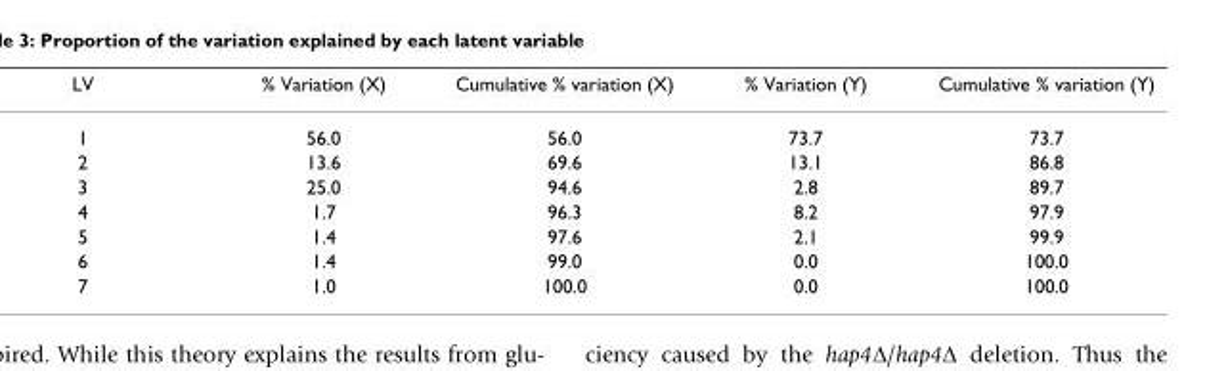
<table><thead><tr><td>LV</td><td>% Variation (X)</td><td>Cumulative % variation (X)</td><td>% Variation (Y)</td><td>Cumulative % variation (Y)</td></tr></thead><tbody><tr><td>1</td><td>56.0</td><td>56.0</td><td>73.7</td><td>73.7</td></tr><tr><td>2</td><td>13.6</td><td>69.6</td><td>13.1</td><td>86.8</td></tr><tr><td>3</td><td>25.0</td><td>94.6</td><td>2.8</td><td>89.7</td></tr><tr><td>4</td><td>1.7</td><td>96.3</td><td>8.2</td><td>97.9</td></tr><tr><td>5</td><td>1.4</td><td>97.6</td><td>2.1</td><td>99.9</td></tr><tr><td>6</td><td>1.4</td><td>99.0</td><td>0.0</td><td>100.0</td></tr><tr><td>7</td><td>1.0</td><td>100.0</td><td>0.0</td><td>100.0</td></tr></tbody></table>